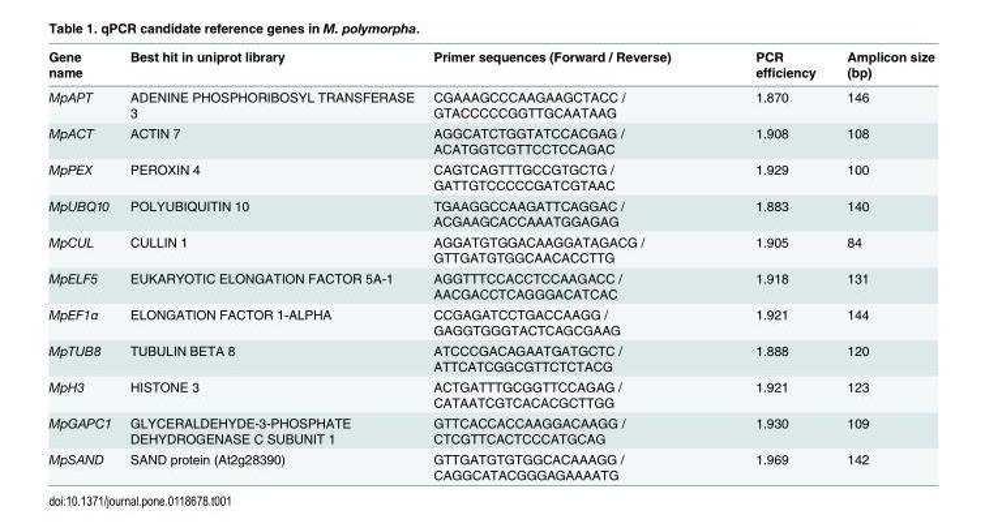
<table><thead><tr><td>Gene name</td><td>Best hit in uniprot library</td><td>Primer sequences (Forward / Reverse)</td><td>PCR efficiency</td><td>Amplicon size (bp)</td></tr></thead><tbody><tr><td>MpAPT</td><td>ADENINE PHOSPHORIBOSYL TRANSFERASE 3</td><td>CGAAAGCCCAAGAAGCTACC / GTACCCCCGGTTGCAATAAG</td><td>1.870</td><td>146</td></tr><tr><td>MpACT</td><td>ACTIN 7</td><td>AGGCATCTGGTATCCACGAG / ACATGGTCGTTCCTCCAGAC</td><td>1.908</td><td>108</td></tr><tr><td>MpPEX</td><td>PEROXIN 4</td><td>CAGTCAGTTTGCCGTGCTG / GATTGTCCCCCGATCGTAAC</td><td>1.929</td><td>100</td></tr><tr><td>MpUBQ10</td><td>POLYUBIQUITIN 10</td><td>TGAAGGCCAAGATTCAGGAC / ACGAAGCACCAAATGGAGAG</td><td>1.883</td><td>140</td></tr><tr><td>MpCUL</td><td>CULLIN 1</td><td>AGGATGTGGACAAGGATAGACG / GTTGATGTGGCAACACCTTG</td><td>1.905</td><td>84</td></tr><tr><td>MpELF5</td><td>EUKARYOTIC ELONGATION FACTOR 5A-1</td><td>AGGTTTCCACCTCCAAGACC / AACGACCTCAGGGACATCAC</td><td>1.918</td><td>131</td></tr><tr><td>MpEF1α</td><td>ELONGATION FACTOR 1-ALPHA</td><td>CCGAGATCCTGACCAAGG / GAGGTGGGTACTCAGCGAAG</td><td>1.921</td><td>144</td></tr><tr><td>MpTUB8</td><td>TUBULIN BETA 8</td><td>ATCCCGACAGAATGATGCTC / ATTCATCGGCGTTCTCTACG</td><td>1.888</td><td>120</td></tr><tr><td>MpH3</td><td>HISTONE 3</td><td>ACTGATTTGCGGTTCCAGAG / CATAATCGTCACACGCTTGG</td><td>1.921</td><td>123</td></tr><tr><td>MpGAPC1</td><td>GLYCERALDEHYDE-3-PHOSPHATE DEHYDROGENASE C SUBUNIT 1</td><td>GTTCACCACCAAGGACAAGG / CTCGTTCACTCCCATGCAG</td><td>1.930</td><td>109</td></tr><tr><td>MpSAND</td><td>SAND protein (At2g28390)</td><td>GTTGATGTGTGGCACAAAGG / CAGGCATACGGGAGAAAATG</td><td>1.969</td><td>142</td></tr></tbody></table>